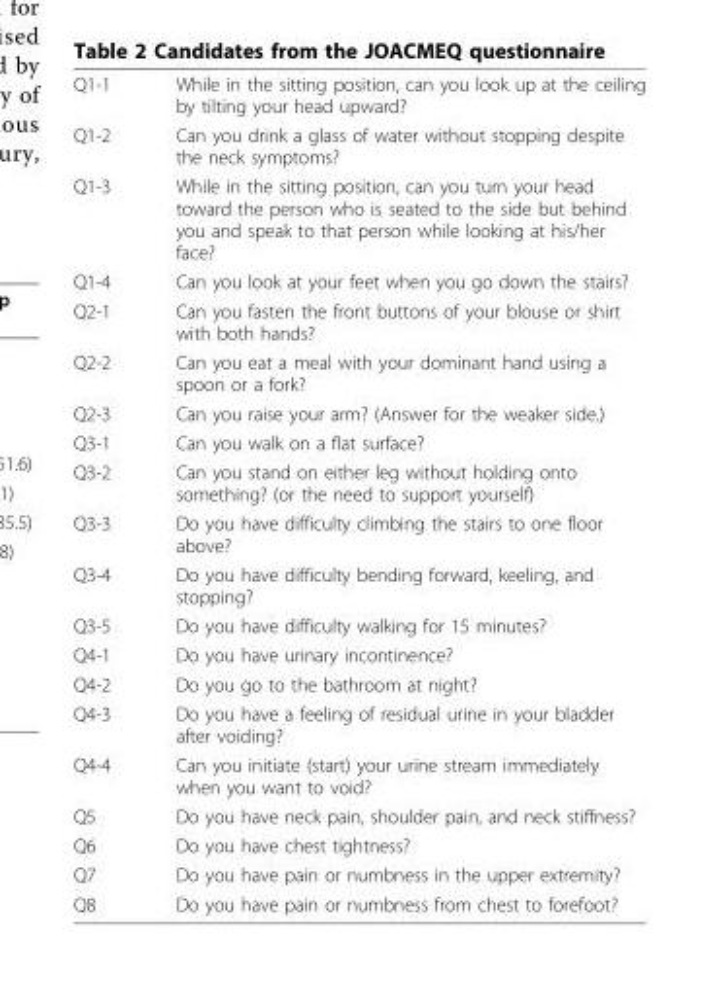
<table><tbody><tr><td>Q1-1</td><td>While in the sitting position, can you look up at the ceiling by tilting your head upward?</td></tr><tr><td>Q1-2</td><td>Can you drink a glass of water without stopping despite the neck symptoms?</td></tr><tr><td>Q1-3</td><td>While in the sitting position, can you turn your head toward the person who is seated to the side but behind you and speak to that person while looking at his/her face?</td></tr><tr><td>Q1-4</td><td>Can you look at your feet when you go down the stairs?</td></tr><tr><td>Q2-1</td><td>Can you fasten the front buttons of your blouse or shirt with both hands?</td></tr><tr><td>Q2-2</td><td>Can you eat a meal with your dominant hand using a spoon or a fork?</td></tr><tr><td>Q2-3</td><td>Can you raise your arm? (Answer for the weaker side.)</td></tr><tr><td>Q3-1</td><td>Can you walk on a flat surface?</td></tr><tr><td>Q3-2</td><td>Can you stand on either leg without holding onto something? (or the need to support yourself)</td></tr><tr><td>Q3-3</td><td>Do you have difficulty climbing the stairs to one floor above?</td></tr><tr><td>Q3-4</td><td>Do you have difficulty bending forward, keeling, and stopping?</td></tr><tr><td>Q3-5</td><td>Do you have difficulty walking for 15 minutes?</td></tr><tr><td>Q4-1</td><td>Do you have urinary incontinence?</td></tr><tr><td>Q4-2</td><td>Do you go to the bathroom at night?</td></tr><tr><td>Q4-3</td><td>Do you have a feeling of residual urine in your bladder after voiding?</td></tr><tr><td>Q4-4</td><td>Can you initiate (start) your urine stream immediately when you want to void?</td></tr><tr><td>Q5</td><td>Do you have neck pain, shoulder pain, and neck stiffness?</td></tr><tr><td>Q6</td><td>Do you have chest tightness?</td></tr><tr><td>Q7</td><td>Do you have pain or numbness in the upper extremity?</td></tr><tr><td>Q8</td><td>Do you have pain or numbness from chest to forefoot?</td></tr></tbody></table>